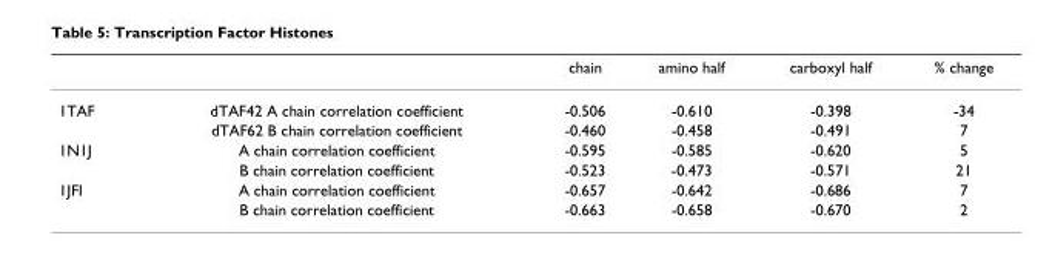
<table><thead><tr><td></td><td></td><td>chain</td><td>amino half</td><td>carboxyl half</td><td>% change</td></tr></thead><tbody><tr><td rowspan="2">1TAF</td><td>dTAF42 A chain correlation coefficient</td><td>-0.506</td><td>-0.610</td><td>-0.398</td><td>-34</td></tr><tr><td>dTAF62 B chain correlation coefficient</td><td>-0.460</td><td>-0.458</td><td>-0.491</td><td>7</td></tr><tr><td rowspan="2">1N1J</td><td>A chain correlation coefficient</td><td>-0.595</td><td>-0.585</td><td>-0.620</td><td>5</td></tr><tr><td>B chain correlation coefficient</td><td>-0.523</td><td>-0.473</td><td>-0.571</td><td>21</td></tr><tr><td rowspan="2">1JFI</td><td>A chain correlation coefficient</td><td>-0.657</td><td>-0.642</td><td>-0.686</td><td>7</td></tr><tr><td>B chain correlation coefficient</td><td>-0.663</td><td>-0.658</td><td>-0.670</td><td>2</td></tr></tbody></table>